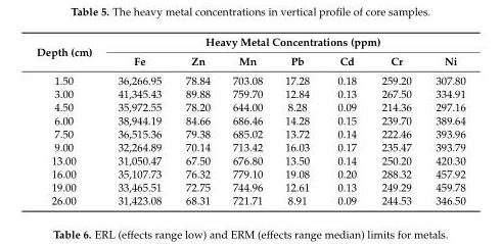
<table><thead><tr><td rowspan="2">Depth (cm)</td><td colspan="7">Heavy Metal Concentrations (ppm)</td></tr><tr><td>Fe</td><td>Zn</td><td>Mn</td><td>Pb</td><td>Cd</td><td>Cr</td><td>Ni</td></tr></thead><tbody><tr><td>1.50</td><td>36,266.95</td><td>78.84</td><td>703.08</td><td>17.28</td><td>0.18</td><td>259.20</td><td>307.80</td></tr><tr><td>3.00</td><td>41,345.43</td><td>89.88</td><td>759.70</td><td>12.84</td><td>0.13</td><td>267.50</td><td>334.91</td></tr><tr><td>4.50</td><td>35,972.55</td><td>78.20</td><td>644.00</td><td>8.28</td><td>0.09</td><td>214.36</td><td>297.16</td></tr><tr><td>6.00</td><td>38,944.19</td><td>84.66</td><td>686.46</td><td>14.28</td><td>0.15</td><td>239.70</td><td>389.64</td></tr><tr><td>7.50</td><td>36,515.36</td><td>79.38</td><td>685.02</td><td>13.72</td><td>0.14</td><td>222.46</td><td>393.96</td></tr><tr><td>9.00</td><td>32,264.89</td><td>70.14</td><td>713.42</td><td>16.03</td><td>0.17</td><td>235.47</td><td>393.79</td></tr><tr><td>13.00</td><td>31,050.47</td><td>67.50</td><td>676.80</td><td>13.50</td><td>0.14</td><td>250.20</td><td>420.30</td></tr><tr><td>16.00</td><td>35,107.73</td><td>76.32</td><td>779.10</td><td>19.08</td><td>0.20</td><td>288.32</td><td>457.92</td></tr><tr><td>19.00</td><td>33,465.51</td><td>72.75</td><td>744.96</td><td>12.61</td><td>0.13</td><td>249.29</td><td>459.78</td></tr><tr><td>26.00</td><td>31,423.08</td><td>68.31</td><td>721.71</td><td>8.91</td><td>0.09</td><td>244.53</td><td>346.50</td></tr></tbody></table>